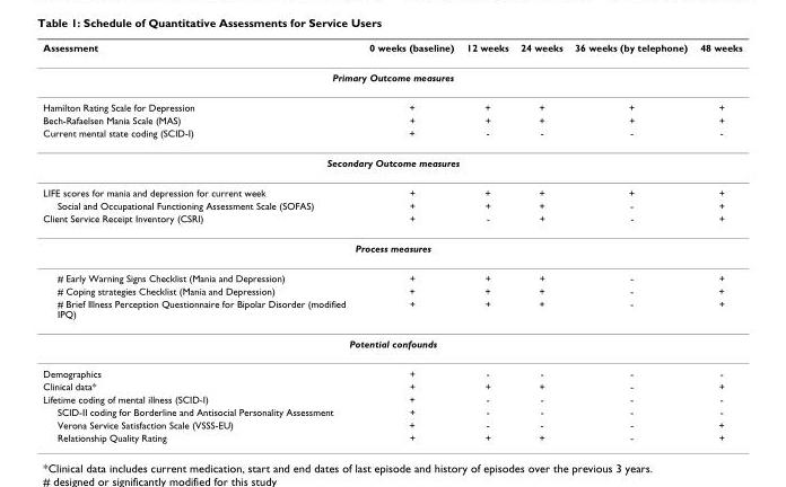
<table><thead><tr><td>Assessment</td><td>0 weeks (baseline)</td><td>12 weeks</td><td>24 weeks</td><td>36 weeks (by telephone)</td><td>48 weeks</td></tr></thead><tbody><tr><td colspan="6">Primary Outcome measures</td></tr><tr><td>Hamilton Rating Scale for Depression</td><td>+</td><td>+</td><td>+</td><td>+</td><td>+</td></tr><tr><td>Bech-Rafaelsen Mania Scale (MAS)</td><td>+</td><td>+</td><td>+</td><td>+</td><td>+</td></tr><tr><td>Current mental state coding (SCID-I)</td><td>+</td><td>-</td><td>-</td><td>-</td><td>-</td></tr><tr><td colspan="6">Secondary Outcome measures</td></tr><tr><td>LIFE scores for mania and depression for current week</td><td>+</td><td>+</td><td>+</td><td>+</td><td>+</td></tr><tr><td>Social and Occupational Functioning Assessment Scale (SOFAS)</td><td>+</td><td>+</td><td>+</td><td>-</td><td>+</td></tr><tr><td>Client Service Receipt Inventory (CSRI)</td><td>+</td><td>-</td><td>+</td><td>-</td><td>+</td></tr><tr><td colspan="6">Process measures</td></tr><tr><td># Early Warning Signs Checklist (Mania and Depression)</td><td>+</td><td>+</td><td>+</td><td>-</td><td>+</td></tr><tr><td># Coping strategies Checklist (Mania and Depression)</td><td>+</td><td>+</td><td>+</td><td>-</td><td>+</td></tr><tr><td># Brief Illness Perception Questionnaire for Bipolar Disorder (modified IPQ)</td><td>+</td><td>+</td><td>+</td><td>-</td><td>+</td></tr><tr><td colspan="6">Potential confounds</td></tr><tr><td>Demographics</td><td>+</td><td>-</td><td>-</td><td>-</td><td>-</td></tr><tr><td>Clinical data*</td><td>+</td><td>+</td><td>+</td><td>-</td><td>+</td></tr><tr><td>Lifetime coding of mental illness (SCID-I)</td><td>+</td><td>-</td><td>-</td><td>-</td><td>-</td></tr><tr><td>SCID-II coding for Borderline and Antisocial Personality Assessment</td><td>+</td><td>-</td><td>-</td><td>-</td><td>-</td></tr><tr><td>Verona Service Satisfaction Scale (VSSS-EU)</td><td>+</td><td>-</td><td>-</td><td>-</td><td>+</td></tr><tr><td>Relationship Quality Rating</td><td>+</td><td>+</td><td>+</td><td>-</td><td>+</td></tr></tbody></table>